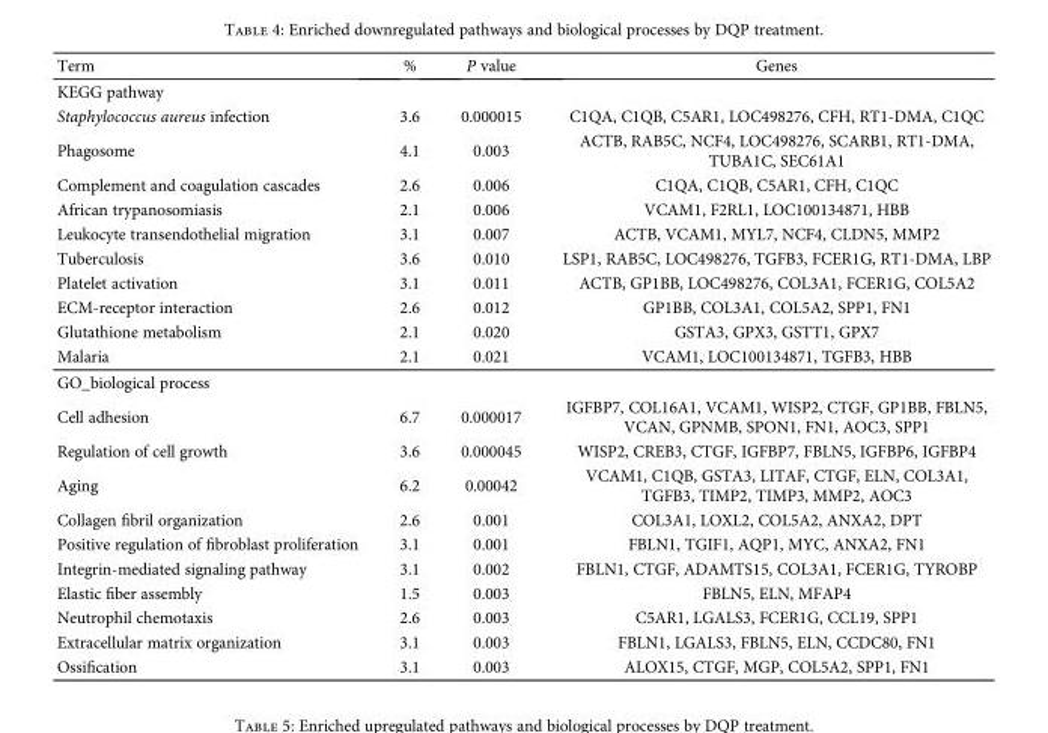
<table><thead><tr><td>Term</td><td>%</td><td>P value</td><td>Genes</td></tr></thead><tbody><tr><td colspan="4">KEGG pathway</td></tr><tr><td>Staphylococcus aureus infection</td><td>3.6</td><td>0.000015</td><td>C1QA, C1QB, C5AR1, LOC498276, CFH, RT1-DMA, C1QC</td></tr><tr><td>Phagosome</td><td>4.1</td><td>0.003</td><td>ACTB, RAB5C, NCF4, LOC498276, SCARB1, RT1-DMA, TUBA1C, SEC61A1</td></tr><tr><td>Complement and coagulation cascades</td><td>2.6</td><td>0.006</td><td>C1QA, C1QB, C5AR1, CFH, C1QC</td></tr><tr><td>African trypanosomiasis</td><td>2.1</td><td>0.006</td><td>VCAM1, F2RL1, LOC100134871, HBB</td></tr><tr><td>Leukocyte transendothelial migration</td><td>3.1</td><td>0.007</td><td>ACTB, VCAM1, MYL7, NCF4, CLDN5, MMP2</td></tr><tr><td>Tuberculosis</td><td>3.6</td><td>0.010</td><td>LSP1, RAB5C, LOC498276, TGFB3, FCER1G, RT1-DMA, LBP</td></tr><tr><td>Platelet activation</td><td>3.1</td><td>0.011</td><td>ACTB, GP1BB, LOC498276, COL3A1, FCER1G, COL5A2</td></tr><tr><td>ECM-receptor interaction</td><td>2.6</td><td>0.012</td><td>GP1BB, COL3A1, COL5A2, SPP1, FN1</td></tr><tr><td>Glutathione metabolism</td><td>2.1</td><td>0.020</td><td>GSTA3, GPX3, GSTT1, GPX7</td></tr><tr><td>Malaria</td><td>2.1</td><td>0.021</td><td>VCAM1, LOC100134871, TGFB3, HBB</td></tr><tr><td colspan="4">GO_biological process</td></tr><tr><td>Cell adhesion</td><td>6.7</td><td>0.000017</td><td>IGFBP7, COL16A1, VCAM1, WISP2, CTGF, GP1BB, FBLN5, VCAN, GPNMB, SPON1, FN1, AOC3, SPP1</td></tr><tr><td>Regulation of cell growth</td><td>3.6</td><td>0.000045</td><td>WISP2, CREB3, CTGF, IGFBP7, FBLN5, IGFBP6, IGFBP4</td></tr><tr><td>Aging</td><td>6.2</td><td>0.00042</td><td>VCAM1, C1QB, GSTA3, LITAF, CTGF, ELN, COL3A1, TGFB3, TIMP2, TIMP3, MMP2, AOC3</td></tr><tr><td>Collagen fibril organization</td><td>2.6</td><td>0.001</td><td>COL3A1, LOXL2, COL5A2, ANXA2, DPT</td></tr><tr><td>Positive regulation of fibroblast proliferation</td><td>3.1</td><td>0.001</td><td>FBLN1, TGIF1, AQP1, MYC, ANXA2, FN1</td></tr><tr><td>Integrin-mediated signaling pathway</td><td>3.1</td><td>0.002</td><td>FBLN1, CTGF, ADAMTS15, COL3A1, FCER1G, TYROBP</td></tr><tr><td>Elastic fiber assembly</td><td>1.5</td><td>0.003</td><td>FBLN5, ELN, MFAP4</td></tr><tr><td>Neutrophil chemotaxis</td><td>2.6</td><td>0.003</td><td>C5AR1, LGALS3, FCER1G, CCL19, SPP1</td></tr><tr><td>Extracellular matrix organization</td><td>3.1</td><td>0.003</td><td>FBLN1, LGALS3, FBLN5, ELN, CCDC80, FN1</td></tr><tr><td>Ossification</td><td>3.1</td><td>0.003</td><td>ALOX15, CTGF, MGP, COL5A2, SPP1, FN1</td></tr></tbody></table>